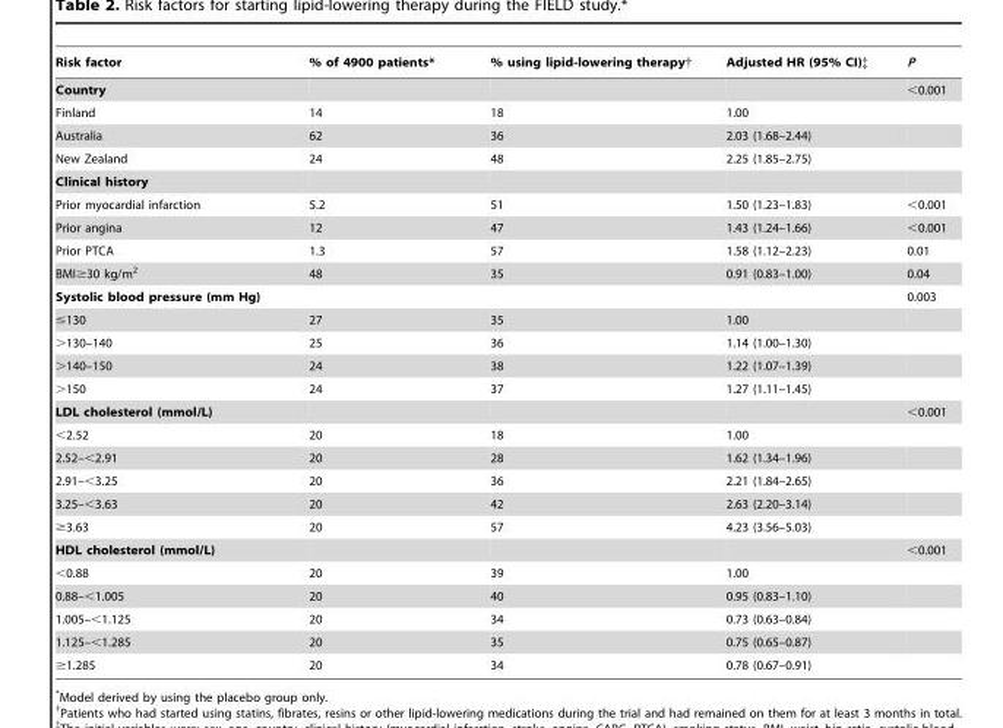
<table><thead><tr><td>Risk factor</td><td>% of 4900 patients*</td><td>% using lipid-lowering therapy†</td><td>Adjusted HR (95% CI)‡</td><td>P</td></tr></thead><tbody><tr><td>Country</td><td></td><td></td><td></td><td>&lt;0.001</td></tr><tr><td>Finland</td><td>14</td><td>18</td><td>1.00</td><td></td></tr><tr><td>Australia</td><td>62</td><td>36</td><td>2.03 (1.68–2.44)</td><td></td></tr><tr><td>New Zealand</td><td>24</td><td>48</td><td>2.25 (1.85–2.75)</td><td></td></tr><tr><td colspan="5">Clinical history</td></tr><tr><td>Prior myocardial infarction</td><td>5.2</td><td>51</td><td>1.50 (1.23–1.83)</td><td>&lt;0.001</td></tr><tr><td>Prior angina</td><td>12</td><td>47</td><td>1.43 (1.24–1.66)</td><td>&lt;0.001</td></tr><tr><td>Prior PTCA</td><td>1.3</td><td>57</td><td>1.58 (1.12–2.23)</td><td>0.01</td></tr><tr><td>BMI≥30 kg/m<sup>2</sup></td><td>48</td><td>35</td><td>0.91 (0.83–1.00)</td><td>0.04</td></tr><tr><td>Systolic blood pressure (mm Hg)</td><td></td><td></td><td></td><td>0.003</td></tr><tr><td>≤130</td><td>27</td><td>35</td><td>1.00</td><td></td></tr><tr><td>&gt;130–140</td><td>25</td><td>36</td><td>1.14 (1.00–1.30)</td><td></td></tr><tr><td>&gt;140–150</td><td>24</td><td>38</td><td>1.22 (1.07–1.39)</td><td></td></tr><tr><td>&gt;150</td><td>24</td><td>37</td><td>1.27 (1.11–1.45)</td><td></td></tr><tr><td>LDL cholesterol (mmol/L)</td><td></td><td></td><td></td><td>&lt;0.001</td></tr><tr><td>&lt;2.52</td><td>20</td><td>18</td><td>1.00</td><td></td></tr><tr><td>2.52–&lt;2.91</td><td>20</td><td>28</td><td>1.62 (1.34–1.96)</td><td></td></tr><tr><td>2.91–&lt;3.25</td><td>20</td><td>36</td><td>2.21 (1.84–2.65)</td><td></td></tr><tr><td>3.25–&lt;3.63</td><td>20</td><td>42</td><td>2.63 (2.20–3.14)</td><td></td></tr><tr><td>≥3.63</td><td>20</td><td>57</td><td>4.23 (3.56–5.03)</td><td></td></tr><tr><td>HDL cholesterol (mmol/L)</td><td></td><td></td><td></td><td>&lt;0.001</td></tr><tr><td>&lt;0.88</td><td>20</td><td>39</td><td>1.00</td><td></td></tr><tr><td>0.88–&lt;1.005</td><td>20</td><td>40</td><td>0.95 (0.83–1.10)</td><td></td></tr><tr><td>1.005–&lt;1.125</td><td>20</td><td>34</td><td>0.73 (0.63–0.84)</td><td></td></tr><tr><td>1.125–&lt;1.285</td><td>20</td><td>35</td><td>0.75 (0.65–0.87)</td><td></td></tr><tr><td>≥1.285</td><td>20</td><td>34</td><td>0.78 (0.67–0.91)</td><td></td></tr></tbody></table>